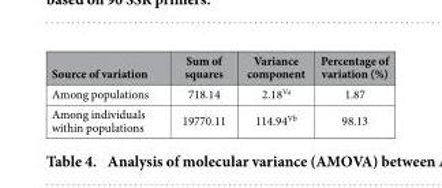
<table><thead><tr><td>Source of variation</td><td>Sum of squares</td><td>Variance component</td><td>Percentage of variation (%)</td></tr></thead><tbody><tr><td>Among populations</td><td>718.14</td><td>2.18<sup>Va</sup></td><td>1.87</td></tr><tr><td>Among individuals within populations</td><td>19770.11</td><td>114.94<sup>Vb</sup></td><td>98.13</td></tr></tbody></table>